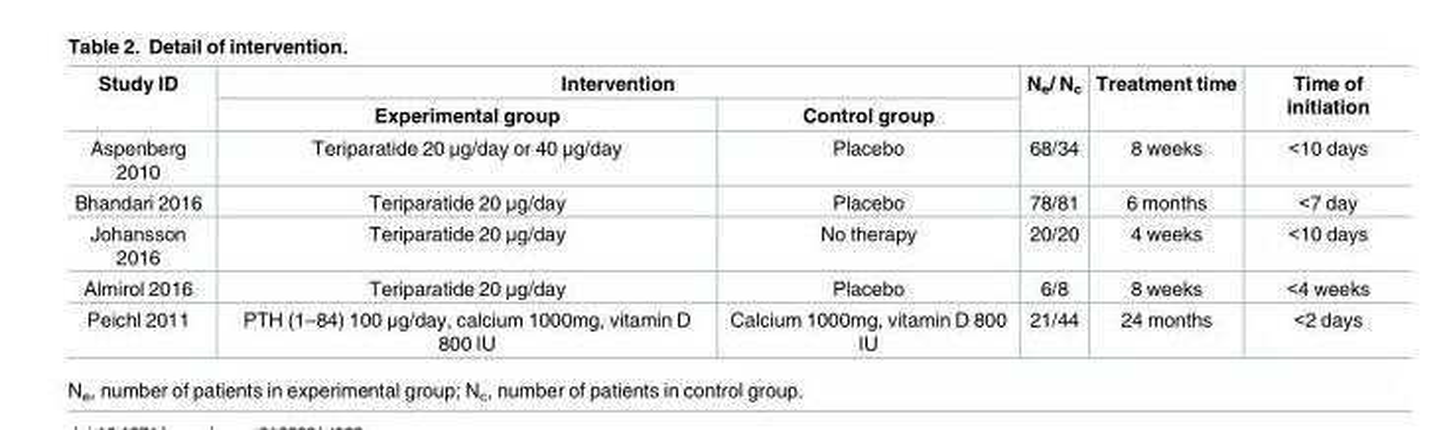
<table><thead><tr><td rowspan="2">Study ID</td><td colspan="2">Intervention</td><td rowspan="2">N<sub>e</sub>/ N<sub>c</sub></td><td rowspan="2">Treatment time</td><td rowspan="2">Time of initiation</td></tr><tr><td>Experimental group</td><td>Control group</td></tr></thead><tbody><tr><td>Aspenberg 2010</td><td>Teriparatide 20 μg/day or 40 μg/day</td><td>Placebo</td><td>68/34</td><td>8 weeks</td><td>&lt;10 days</td></tr><tr><td>Bhandari 2016</td><td>Teriparatide 20 μg/day</td><td>Placebo</td><td>78/81</td><td>6 months</td><td>&lt;7 day</td></tr><tr><td>Johansson 2016</td><td>Teriparatide 20 μg/day</td><td>No therapy</td><td>20/20</td><td>4 weeks</td><td>&lt;10 days</td></tr><tr><td>Almirol 2016</td><td>Teriparatide 20 μg/day</td><td>Placebo</td><td>6/8</td><td>8 weeks</td><td>&lt;4 weeks</td></tr><tr><td>Peichl 2011</td><td>PTH (1–84) 100 μg/day, calcium 1000mg, vitamin D 800 IU</td><td>Calcium 1000mg, vitamin D 800 IU</td><td>21/44</td><td>24 months</td><td>&lt;2 days</td></tr></tbody></table>